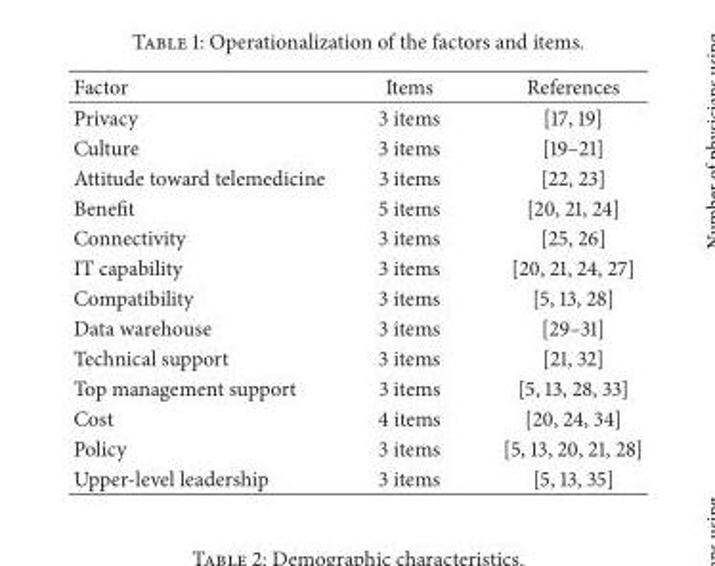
<table><thead><tr><td>Factor</td><td>Items</td><td>References</td></tr></thead><tbody><tr><td>Privacy</td><td>3 items</td><td>[17, 19]</td></tr><tr><td>Culture</td><td>3 items</td><td>[19–21]</td></tr><tr><td>Attitude toward telemedicine</td><td>3 items</td><td>[22, 23]</td></tr><tr><td>Benefit</td><td>5 items</td><td>[20, 21, 24]</td></tr><tr><td>Connectivity</td><td>3 items</td><td>[25, 26]</td></tr><tr><td>IT capability</td><td>3 items</td><td>[20, 21, 24, 27]</td></tr><tr><td>Compatibility</td><td>3 items</td><td>[5, 13, 28]</td></tr><tr><td>Data warehouse</td><td>3 items</td><td>[29–31]</td></tr><tr><td>Technical support</td><td>3 items</td><td>[21, 32]</td></tr><tr><td>Top management support</td><td>3 items</td><td>[5, 13, 28, 33]</td></tr><tr><td>Cost</td><td>4 items</td><td>[20, 24, 34]</td></tr><tr><td>Policy</td><td>3 items</td><td>[5, 13, 20, 21, 28]</td></tr><tr><td>Upper-level leadership</td><td>3 items</td><td>[5, 13, 35]</td></tr></tbody></table>